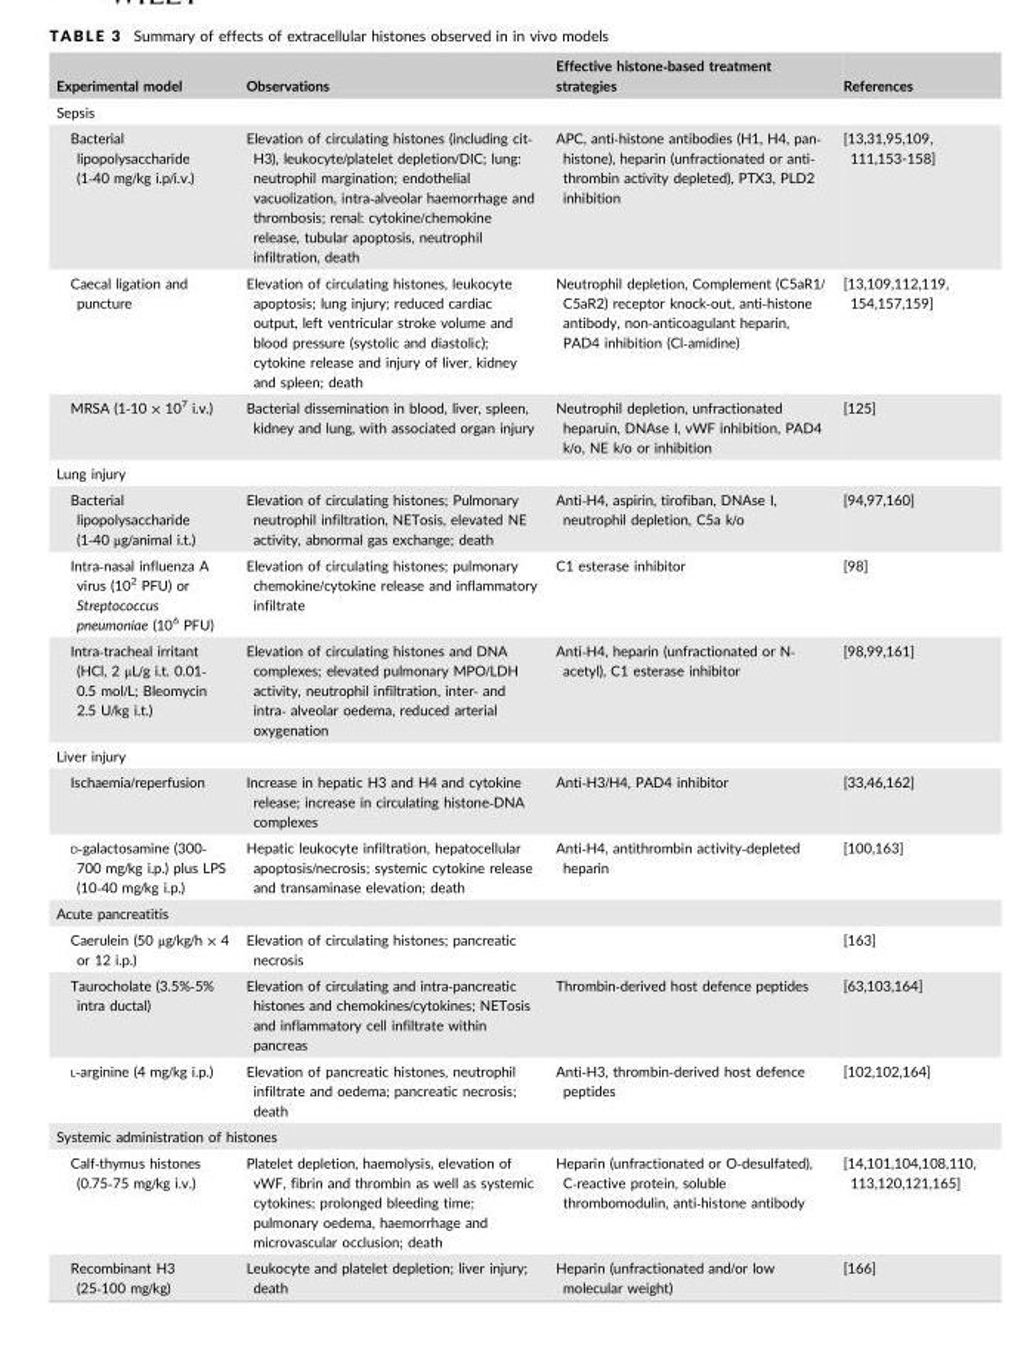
<table><thead><tr><td>Experimental model</td><td>Observations</td><td>Effective histone‐based treatment strategies</td><td>References</td></tr></thead><tbody><tr><td colspan="4">Sepsis</td></tr><tr><td>Bacterial lipopolysaccharide (1‐40 mg/kg i.p/i.v.)</td><td>Elevation of circulating histones (including cit‐ H3), leukocyte/platelet depletion/DIC; lung: neutrophil margination; endothelial vacuolization, intra‐alveolar haemorrhage and thrombosis; renal: cytokine/chemokine release, tubular apoptosis, neutrophil infiltration, death</td><td>APC, anti‐histone antibodies (H1, H4, pan‐ histone), heparin (unfractionated or anti‐ thrombin activity depleted), PTX3, PLD2 inhibition</td><td>[13,31,95,109, 111,153-158]</td></tr><tr><td>Caecal ligation and puncture</td><td>Elevation of circulating histones, leukocyte apoptosis; lung injury; reduced cardiac output, left ventricular stroke volume and blood pressure (systolic and diastolic); cytokine release and injury of liver, kidney and spleen; death</td><td>Neutrophil depletion, Complement (C5aR1/ C5aR2) receptor knock‐out, anti‐histone antibody, non‐anticoagulant heparin, PAD4 inhibition (Cl‐amidine)</td><td>[13,109,112,119, 154,157,159]</td></tr><tr><td>MRSA (1‐10 × 10<sup>7</sup> i.v.)</td><td>Bacterial dissemination in blood, liver, spleen, kidney and lung, with associated organ injury</td><td>Neutrophil depletion, unfractionated heparuin, DNAse I, vWF inhibition, PAD4 k/o, NE k/o or inhibition</td><td>[125]</td></tr><tr><td colspan="4">Lung injury</td></tr><tr><td>Bacterial lipopolysaccharide (1‐40 μg/animal i.t.)</td><td>Elevation of circulating histones; Pulmonary neutrophil infiltration, NETosis, elevated NE activity, abnormal gas exchange; death</td><td>Anti‐H4, aspirin, tirofiban, DNAse I, neutrophil depletion, C5a k/o</td><td>[94,97,160]</td></tr><tr><td>Intra‐nasal influenza A virus (10<sup>2</sup> PFU) or Streptococcus pneumoniae (10<sup>6</sup> PFU)</td><td>Elevation of circulating histones; pulmonary chemokine/cytokine release and inflammatory infiltrate</td><td>C1 esterase inhibitor</td><td>[98]</td></tr><tr><td>Intra‐tracheal irritant (HCl, 2 μL/g i.t. 0.01‐ 0.5 mol/L; Bleomycin 2.5 U/kg i.t.)</td><td>Elevation of circulating histones and DNA complexes; elevated pulmonary MPO/LDH activity, neutrophil infiltration, inter‐ and intra‐ alveolar oedema, reduced arterial oxygenation</td><td>Anti‐H4, heparin (unfractionated or N‐ acetyl), C1 esterase inhibitor</td><td>[98,99,161]</td></tr><tr><td colspan="4">Liver injury</td></tr><tr><td>Ischaemia/reperfusion</td><td>Increase in hepatic H3 and H4 and cytokine release; increase in circulating histone‐DNA complexes</td><td>Anti‐H3/H4, PAD4 inhibitor</td><td>[33,46,162]</td></tr><tr><td>D‐galactosamine (300‐ 700 mg/kg i.p.) plus LPS (10‐40 mg/kg i.p.)</td><td>Hepatic leukocyte infiltration, hepatocellular apoptosis/necrosis; systemic cytokine release and transaminase elevation; death</td><td>Anti‐H4, antithrombin activity‐depleted heparin</td><td>[100,163]</td></tr><tr><td colspan="4">Acute pancreatitis</td></tr><tr><td>Caerulein (50 μg/kg/h × 4 or 12 i.p.)</td><td>Elevation of circulating histones; pancreatic necrosis</td><td></td><td>[163]</td></tr><tr><td>Taurocholate (3.5%‐5% intra ductal)</td><td>Elevation of circulating and intra‐pancreatic histones and chemokines/cytokines; NETosis and inflammatory cell infiltrate within pancreas</td><td>Thrombin‐derived host defence peptides</td><td>[63,103,164]</td></tr><tr><td>L‐arginine (4 mg/kg i.p.)</td><td>Elevation of pancreatic histones, neutrophil infiltrate and oedema; pancreatic necrosis; death</td><td>Anti‐H3, thrombin‐derived host defence peptides</td><td>[102,102,164]</td></tr><tr><td colspan="4">Systemic administration of histones</td></tr><tr><td>Calf‐thymus histones (0.75‐75 mg/kg i.v.)</td><td>Platelet depletion, haemolysis, elevation of vWF, fibrin and thrombin as well as systemic cytokines; prolonged bleeding time; pulmonary oedema, haemorrhage and microvascular occlusion; death</td><td>Heparin (unfractionated or O‐desulfated), C‐reactive protein, soluble thrombomodulin, anti‐histone antibody</td><td>[14,101,104,108,110, 113,120,121,165]</td></tr><tr><td>Recombinant H3 (25‐100 mg/kg)</td><td>Leukocyte and platelet depletion; liver injury; death</td><td>Heparin (unfractionated and/or low molecular weight)</td><td>[166]</td></tr></tbody></table>